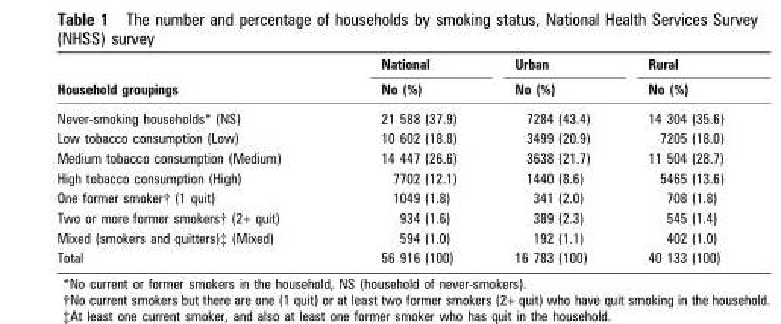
<table><thead><tr><td rowspan="2">Household groupings</td><td rowspan="2">National No (%)</td><td rowspan="2">Urban No (%)</td><td rowspan="2">Rural No (%)</td></tr><tr></tr></thead><tbody><tr><td>Never-smoking households* (NS)</td><td>21 588 (37.9)</td><td>7284 (43.4)</td><td>14 304 (35.6)</td></tr><tr><td>Low tobacco consumption (Low)</td><td>10 602 (18.8)</td><td>3499 (20.9)</td><td>7205 (18.0)</td></tr><tr><td>Medium tobacco consumption (Medium)</td><td>14 447 (26.6)</td><td>3638 (21.7)</td><td>11 504 (28.7)</td></tr><tr><td>High tobacco consumption (High)</td><td>7702 (12.1)</td><td>1440 (8.6)</td><td>5465 (13.6)</td></tr><tr><td>One former smoker† (1 quit)</td><td>1049 (1.8)</td><td>341 (2.0)</td><td>708 (1.8)</td></tr><tr><td>Two or more former smokers† (2+ quit)</td><td>934 (1.6)</td><td>389 (2.3)</td><td>545 (1.4)</td></tr><tr><td>Mixed (smokers and quitters)‡ (Mixed)</td><td>594 (1.0)</td><td>192 (1.1)</td><td>402 (1.0)</td></tr><tr><td>Total</td><td>56 916 (100)</td><td>16 783 (100)</td><td>40 133 (100)</td></tr></tbody></table>